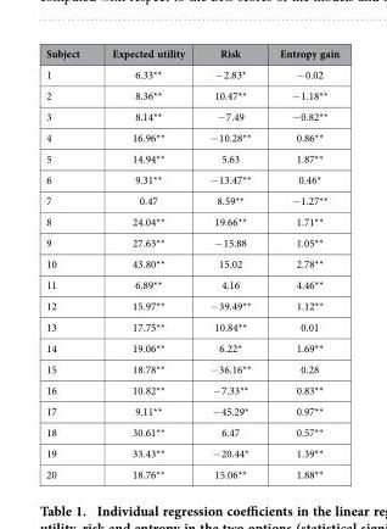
<table><thead><tr><td>Subject</td><td>Expected utility</td><td>Risk</td><td>Entropy gain</td></tr></thead><tbody><tr><td>1</td><td>6.33**</td><td>− 2.83*</td><td>− 0.02</td></tr><tr><td>2</td><td>8.36**</td><td>10.47**</td><td>− 1.18**</td></tr><tr><td>3</td><td>8.14**</td><td>− 7.49</td><td>− 0.82**</td></tr><tr><td>4</td><td>16.96**</td><td>− 10.28**</td><td>0.86**</td></tr><tr><td>5</td><td>14.94**</td><td>5.63</td><td>1.87**</td></tr><tr><td>6</td><td>9.31**</td><td>− 13.47**</td><td>0.46*</td></tr><tr><td>7</td><td>0.47</td><td>8.59**</td><td>− 1.27**</td></tr><tr><td>8</td><td>24.04**</td><td>19.66**</td><td>1.71**</td></tr><tr><td>9</td><td>27.63**</td><td>− 15.88</td><td>1.05**</td></tr><tr><td>10</td><td>43.80**</td><td>15.02</td><td>2.78**</td></tr><tr><td>11</td><td>6.89**</td><td>4.16</td><td>4.46**</td></tr><tr><td>12</td><td>15.97**</td><td>− 39.49**</td><td>1.12**</td></tr><tr><td>13</td><td>17.75**</td><td>10.84**</td><td>0.01</td></tr><tr><td>14</td><td>19.06**</td><td>6.22*</td><td>1.69**</td></tr><tr><td>15</td><td>18.78**</td><td>− 36.16**</td><td>0.28</td></tr><tr><td>16</td><td>10.82**</td><td>− 7.33**</td><td>0.83**</td></tr><tr><td>17</td><td>9.11**</td><td>− 45.29*</td><td>0.97**</td></tr><tr><td>18</td><td>30.61**</td><td>6.47</td><td>0.57**</td></tr><tr><td>19</td><td>33.43**</td><td>− 20.44*</td><td>1.39**</td></tr><tr><td>20</td><td>18.76**</td><td>15.06**</td><td>1.88**</td></tr></tbody></table>